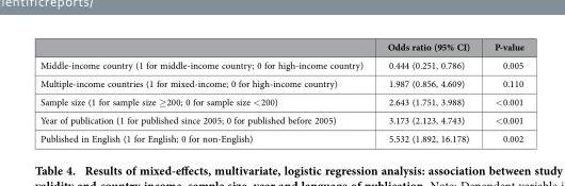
<table><thead><tr><td></td><td>Odds ratio (95% CI)</td><td>P-value</td></tr></thead><tbody><tr><td>Middle-income country (1 for middle-income country; 0 for high-income country)</td><td>0.444 (0.251, 0.786)</td><td>0.005</td></tr><tr><td>Multiple-income countries (1 for mixed-income; 0 for high-income country)</td><td>1.987 (0.856, 4.609)</td><td>0.110</td></tr><tr><td>Sample size (1 for sample size ≥ 200; 0 for sample size &lt; 200)</td><td>2.643 (1.751, 3.988)</td><td>&lt; 0.001</td></tr><tr><td>Year of publication (1 for published since 2005; 0 for published before 2005)</td><td>3.173 (2.123, 4.743)</td><td>&lt; 0.001</td></tr><tr><td>Published in English (1 for English; 0 for non-English)</td><td>5.532 (1.892, 16.178)</td><td>0.002</td></tr></tbody></table>